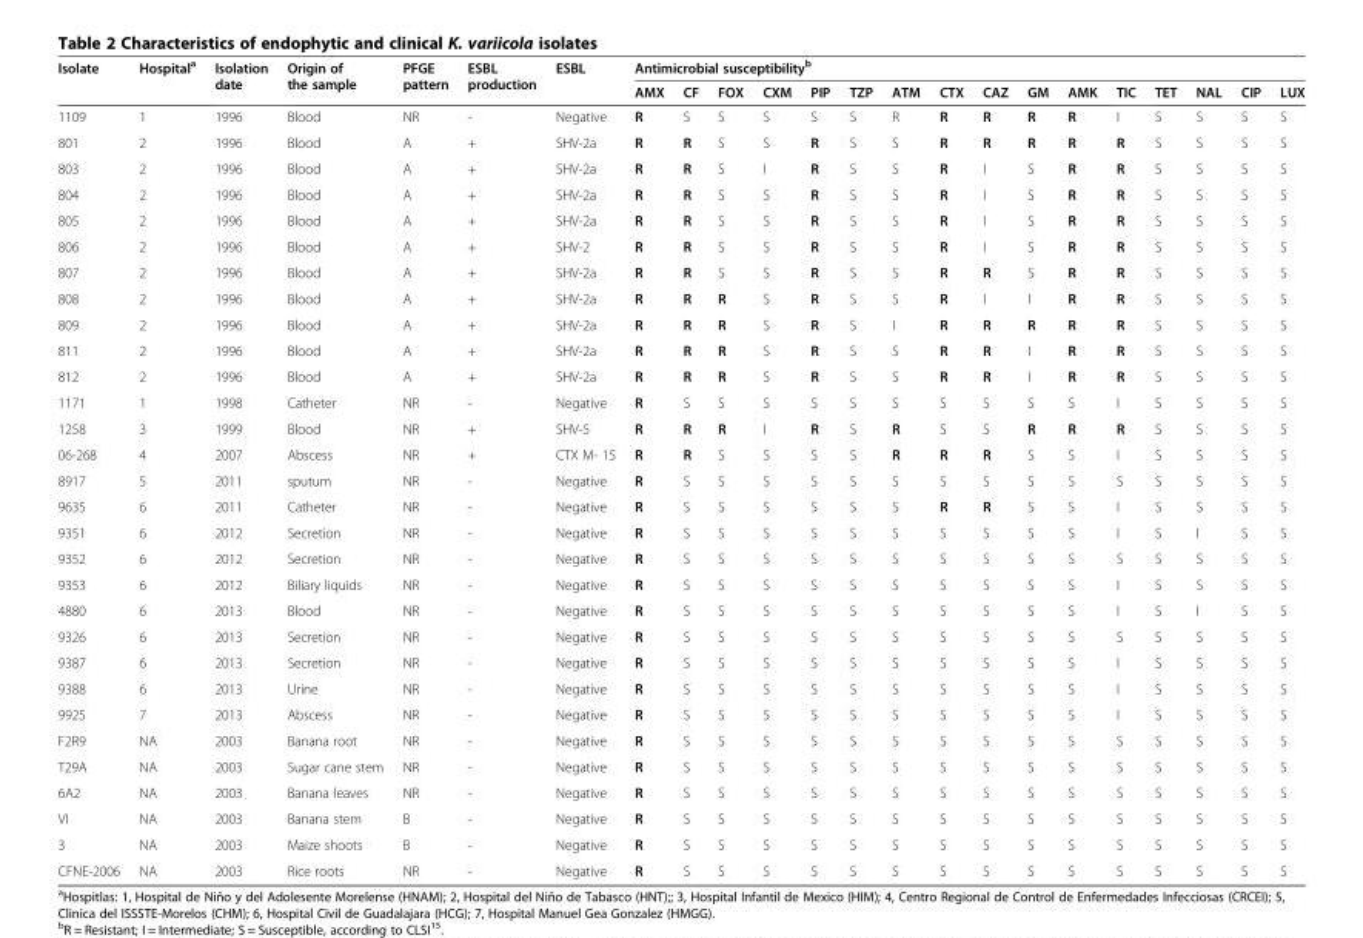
<table><thead><tr><td rowspan="2">Isolate</td><td rowspan="2">Hospital<sup>a</sup></td><td rowspan="2">Isolation date</td><td rowspan="2">Origin of the sample</td><td rowspan="2">PFGE pattern</td><td rowspan="2">ESBL production</td><td rowspan="2">ESBL</td><td colspan="16">Antimicrobial susceptibility<sup>b</sup></td></tr><tr><td>AMX</td><td>CF</td><td>FOX</td><td>CXM</td><td>PIP</td><td>TZP</td><td>ATM</td><td>CTX</td><td>CAZ</td><td>GM</td><td>AMK</td><td>TIC</td><td>TET</td><td>NAL</td><td>CIP</td><td>LUX</td></tr></thead><tbody><tr><td>1109</td><td>1</td><td>1996</td><td>Blood</td><td>NR</td><td>-</td><td>Negative</td><td>R</td><td>S</td><td>S</td><td>S</td><td>S</td><td>S</td><td>R</td><td>R</td><td>R</td><td>R</td><td>R</td><td>I</td><td>S</td><td>S</td><td>S</td><td>S</td></tr><tr><td>801</td><td>2</td><td>1996</td><td>Blood</td><td>A</td><td>+</td><td>SHV-2a</td><td>R</td><td>R</td><td>S</td><td>S</td><td>R</td><td>S</td><td>S</td><td>R</td><td>R</td><td>R</td><td>R</td><td>R</td><td>S</td><td>S</td><td>S</td><td>S</td></tr><tr><td>803</td><td>2</td><td>1996</td><td>Blood</td><td>A</td><td>+</td><td>SHV-2a</td><td>R</td><td>R</td><td>S</td><td>I</td><td>R</td><td>S</td><td>S</td><td>R</td><td>I</td><td>S</td><td>R</td><td>R</td><td>S</td><td>S</td><td>S</td><td>S</td></tr><tr><td>804</td><td>2</td><td>1996</td><td>Blood</td><td>A</td><td>+</td><td>SHV-2a</td><td>R</td><td>R</td><td>S</td><td>S</td><td>R</td><td>S</td><td>S</td><td>R</td><td>I</td><td>S</td><td>R</td><td>R</td><td>S</td><td>S</td><td>S</td><td>S</td></tr><tr><td>805</td><td>2</td><td>1996</td><td>Blood</td><td>A</td><td>+</td><td>SHV-2a</td><td>R</td><td>R</td><td>S</td><td>S</td><td>R</td><td>S</td><td>S</td><td>R</td><td>I</td><td>S</td><td>R</td><td>R</td><td>S</td><td>S</td><td>S</td><td>S</td></tr><tr><td>806</td><td>2</td><td>1996</td><td>Blood</td><td>A</td><td>+</td><td>SHV-2</td><td>R</td><td>R</td><td>S</td><td>S</td><td>R</td><td>S</td><td>S</td><td>R</td><td>I</td><td>S</td><td>R</td><td>R</td><td>S</td><td>S</td><td>S</td><td>S</td></tr><tr><td>807</td><td>2</td><td>1996</td><td>Blood</td><td>A</td><td>+</td><td>SHV-2a</td><td>R</td><td>R</td><td>S</td><td>S</td><td>R</td><td>S</td><td>S</td><td>R</td><td>R</td><td>S</td><td>R</td><td>R</td><td>S</td><td>S</td><td>S</td><td>S</td></tr><tr><td>808</td><td>2</td><td>1996</td><td>Blood</td><td>A</td><td>+</td><td>SHV-2a</td><td>R</td><td>R</td><td>R</td><td>S</td><td>R</td><td>S</td><td>S</td><td>R</td><td>I</td><td>I</td><td>R</td><td>R</td><td>S</td><td>S</td><td>S</td><td>S</td></tr><tr><td>809</td><td>2</td><td>1996</td><td>Blood</td><td>A</td><td>+</td><td>SHV-2a</td><td>R</td><td>R</td><td>R</td><td>S</td><td>R</td><td>S</td><td>I</td><td>R</td><td>R</td><td>R</td><td>R</td><td>R</td><td>S</td><td>S</td><td>S</td><td>S</td></tr><tr><td>811</td><td>2</td><td>1996</td><td>Blood</td><td>A</td><td>+</td><td>SHV-2a</td><td>R</td><td>R</td><td>R</td><td>S</td><td>R</td><td>S</td><td>S</td><td>R</td><td>R</td><td>I</td><td>R</td><td>R</td><td>S</td><td>S</td><td>S</td><td>S</td></tr><tr><td>812</td><td>2</td><td>1996</td><td>Blood</td><td>A</td><td>+</td><td>SHV-2a</td><td>R</td><td>R</td><td>R</td><td>S</td><td>R</td><td>S</td><td>S</td><td>R</td><td>R</td><td>I</td><td>R</td><td>R</td><td>S</td><td>S</td><td>S</td><td>S</td></tr><tr><td>1171</td><td>1</td><td>1998</td><td>Catheter</td><td>NR</td><td>-</td><td>Negative</td><td>R</td><td>S</td><td>S</td><td>S</td><td>S</td><td>S</td><td>S</td><td>S</td><td>S</td><td>S</td><td>S</td><td>I</td><td>S</td><td>S</td><td>S</td><td>S</td></tr><tr><td>1258</td><td>3</td><td>1999</td><td>Blood</td><td>NR</td><td>+</td><td>SHV-5</td><td>R</td><td>R</td><td>R</td><td>I</td><td>R</td><td>S</td><td>R</td><td>S</td><td>S</td><td>R</td><td>R</td><td>R</td><td>S</td><td>S</td><td>S</td><td>S</td></tr><tr><td>06-268</td><td>4</td><td>2007</td><td>Abscess</td><td>NR</td><td>+</td><td>CTX M- 15</td><td>R</td><td>R</td><td>S</td><td>S</td><td>S</td><td>S</td><td>R</td><td>R</td><td>R</td><td>S</td><td>S</td><td>I</td><td>S</td><td>S</td><td>S</td><td>S</td></tr><tr><td>8917</td><td>5</td><td>2011</td><td>sputum</td><td>NR</td><td>-</td><td>Negative</td><td>R</td><td>S</td><td>S</td><td>S</td><td>S</td><td>S</td><td>S</td><td>S</td><td>S</td><td>S</td><td>S</td><td>S</td><td>S</td><td>S</td><td>S</td><td>S</td></tr><tr><td>9635</td><td>6</td><td>2011</td><td>Catheter</td><td>NR</td><td>-</td><td>Negative</td><td>R</td><td>S</td><td>S</td><td>S</td><td>S</td><td>S</td><td>S</td><td>R</td><td>R</td><td>S</td><td>S</td><td>I</td><td>S</td><td>S</td><td>S</td><td>S</td></tr><tr><td>9351</td><td>6</td><td>2012</td><td>Secretion</td><td>NR</td><td>-</td><td>Negative</td><td>R</td><td>S</td><td>S</td><td>S</td><td>S</td><td>S</td><td>S</td><td>S</td><td>S</td><td>S</td><td>S</td><td>I</td><td>S</td><td>I</td><td>S</td><td>S</td></tr><tr><td>9352</td><td>6</td><td>2012</td><td>Secretion</td><td>NR</td><td>-</td><td>Negative</td><td>R</td><td>S</td><td>S</td><td>S</td><td>S</td><td>S</td><td>S</td><td>S</td><td>S</td><td>S</td><td>S</td><td>S</td><td>S</td><td>S</td><td>S</td><td>S</td></tr><tr><td>9353</td><td>6</td><td>2012</td><td>Biliary liquids</td><td>NR</td><td>-</td><td>Negative</td><td>R</td><td>S</td><td>S</td><td>S</td><td>S</td><td>S</td><td>S</td><td>S</td><td>S</td><td>S</td><td>S</td><td>I</td><td>S</td><td>S</td><td>S</td><td>S</td></tr><tr><td>4880</td><td>6</td><td>2013</td><td>Blood</td><td>NR</td><td>-</td><td>Negative</td><td>R</td><td>S</td><td>S</td><td>S</td><td>S</td><td>S</td><td>S</td><td>S</td><td>S</td><td>S</td><td>S</td><td>I</td><td>S</td><td>I</td><td>S</td><td>S</td></tr><tr><td>9326</td><td>6</td><td>2013</td><td>Secretion</td><td>NR</td><td>-</td><td>Negative</td><td>R</td><td>S</td><td>S</td><td>S</td><td>S</td><td>S</td><td>S</td><td>S</td><td>S</td><td>S</td><td>S</td><td>S</td><td>S</td><td>S</td><td>S</td><td>S</td></tr><tr><td>9387</td><td>6</td><td>2013</td><td>Secretion</td><td>NR</td><td>-</td><td>Negative</td><td>R</td><td>S</td><td>S</td><td>S</td><td>S</td><td>S</td><td>S</td><td>S</td><td>S</td><td>S</td><td>S</td><td>I</td><td>S</td><td>S</td><td>S</td><td>S</td></tr><tr><td>9388</td><td>6</td><td>2013</td><td>Urine</td><td>NR</td><td>-</td><td>Negative</td><td>R</td><td>S</td><td>S</td><td>S</td><td>S</td><td>S</td><td>S</td><td>S</td><td>S</td><td>S</td><td>S</td><td>I</td><td>S</td><td>S</td><td>S</td><td>S</td></tr><tr><td>9925</td><td>7</td><td>2013</td><td>Abscess</td><td>NR</td><td>-</td><td>Negative</td><td>R</td><td>S</td><td>S</td><td>S</td><td>S</td><td>S</td><td>S</td><td>S</td><td>S</td><td>S</td><td>S</td><td>I</td><td>S</td><td>S</td><td>S</td><td>S</td></tr><tr><td>F2R9</td><td>NA</td><td>2003</td><td>Banana root</td><td>NR</td><td>-</td><td>Negative</td><td>R</td><td>S</td><td>S</td><td>S</td><td>S</td><td>S</td><td>S</td><td>S</td><td>S</td><td>S</td><td>S</td><td>S</td><td>S</td><td>S</td><td>S</td><td>S</td></tr><tr><td>T29A</td><td>NA</td><td>2003</td><td>Sugar cane stem</td><td>NR</td><td>-</td><td>Negative</td><td>R</td><td>S</td><td>S</td><td>S</td><td>S</td><td>S</td><td>S</td><td>S</td><td>S</td><td>S</td><td>S</td><td>S</td><td>S</td><td>S</td><td>S</td><td>S</td></tr><tr><td>6A2</td><td>NA</td><td>2003</td><td>Banana leaves</td><td>NR</td><td>-</td><td>Negative</td><td>R</td><td>S</td><td>S</td><td>S</td><td>S</td><td>S</td><td>S</td><td>S</td><td>S</td><td>S</td><td>S</td><td>S</td><td>S</td><td>S</td><td>S</td><td>S</td></tr><tr><td>VI</td><td>NA</td><td>2003</td><td>Banana stem</td><td>B</td><td>-</td><td>Negative</td><td>R</td><td>S</td><td>S</td><td>S</td><td>S</td><td>S</td><td>S</td><td>S</td><td>S</td><td>S</td><td>S</td><td>S</td><td>S</td><td>S</td><td>S</td><td>S</td></tr><tr><td>3</td><td>NA</td><td>2003</td><td>Maize shoots</td><td>B</td><td>-</td><td>Negative</td><td>R</td><td>S</td><td>S</td><td>S</td><td>S</td><td>S</td><td>S</td><td>S</td><td>S</td><td>S</td><td>S</td><td>S</td><td>S</td><td>S</td><td>S</td><td>S</td></tr><tr><td>CFNE-2006</td><td>NA</td><td>2003</td><td>Rice roots</td><td>NR</td><td>-</td><td>Negative</td><td>R</td><td>S</td><td>S</td><td>S</td><td>S</td><td>S</td><td>S</td><td>S</td><td>S</td><td>S</td><td>S</td><td>S</td><td>S</td><td>S</td><td>S</td><td>S</td></tr></tbody></table>